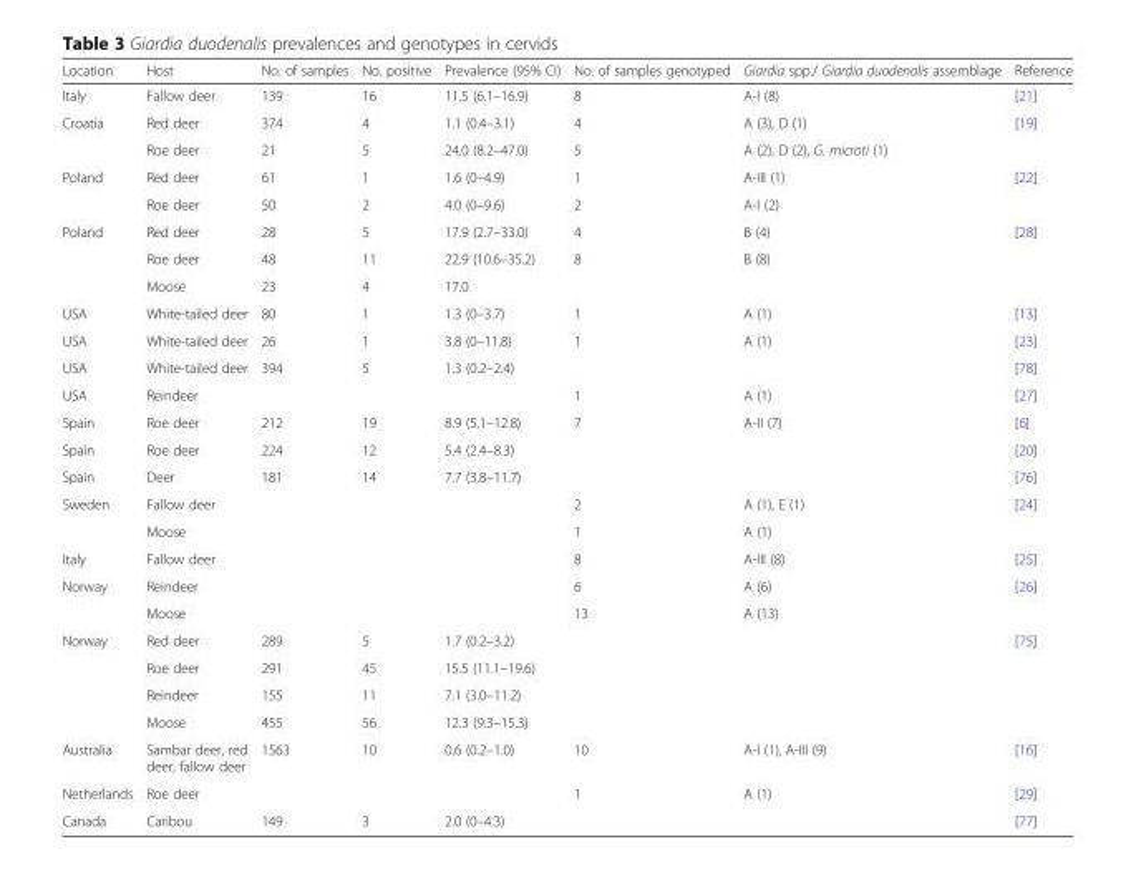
<table><thead><tr><td>Location</td><td>Host</td><td>No. of samples</td><td>No. positive</td><td>Prevalence (95% CI)</td><td>No. of samples genotyped</td><td>Giardia spp./ Giardia duodenalis assemblage</td><td>Reference</td></tr></thead><tbody><tr><td>Italy</td><td>Fallow deer</td><td>139</td><td>16</td><td>11.5 (6.1–16.9)</td><td>8</td><td>A-I (8)</td><td>[21]</td></tr><tr><td rowspan="2">Croatia</td><td>Red deer</td><td>374</td><td>4</td><td>1.1 (0.4–3.1)</td><td>4</td><td>A (3), D (1)</td><td>[19]</td></tr><tr><td>Roe deer</td><td>21</td><td>5</td><td>24.0 (8.2–47.0)</td><td>5</td><td>A (2), D (2), G. microti (1)</td><td></td></tr><tr><td rowspan="2">Poland</td><td>Red deer</td><td>61</td><td>1</td><td>1.6 (0–4.9)</td><td>1</td><td>A-III (1)</td><td>[22]</td></tr><tr><td>Roe deer</td><td>50</td><td>2</td><td>4.0 (0–9.6)</td><td>2</td><td>A-I (2)</td><td></td></tr><tr><td rowspan="3">Poland</td><td>Red deer</td><td>28</td><td>5</td><td>17.9 (2.7–33.0)</td><td>4</td><td>B (4)</td><td>[28]</td></tr><tr><td>Roe deer</td><td>48</td><td>11</td><td>22.9 (10.6–35.2)</td><td>8</td><td>B (8)</td><td></td></tr><tr><td>Moose</td><td>23</td><td>4</td><td>17.0</td><td></td><td></td><td></td></tr><tr><td>USA</td><td>White-tailed deer</td><td>80</td><td>1</td><td>1.3 (0–3.7)</td><td>1</td><td>A (1)</td><td>[13]</td></tr><tr><td>USA</td><td>White-tailed deer</td><td>26</td><td>1</td><td>3.8 (0–11.8)</td><td>1</td><td>A (1)</td><td>[23]</td></tr><tr><td>USA</td><td>White-tailed deer</td><td>394</td><td>5</td><td>1.3 (0.2–2.4)</td><td></td><td></td><td>[78]</td></tr><tr><td>USA</td><td>Reindeer</td><td></td><td></td><td></td><td>1</td><td>A (1)</td><td>[27]</td></tr><tr><td>Spain</td><td>Roe deer</td><td>212</td><td>19</td><td>8.9 (5.1–12.8)</td><td>7</td><td>A-II (7)</td><td>[6]</td></tr><tr><td>Spain</td><td>Roe deer</td><td>224</td><td>12</td><td>5.4 (2.4–8.3)</td><td></td><td></td><td>[20]</td></tr><tr><td>Spain</td><td>Deer</td><td>181</td><td>14</td><td>7.7 (3.8–11.7)</td><td></td><td></td><td>[76]</td></tr><tr><td rowspan="2">Sweden</td><td>Fallow deer</td><td></td><td></td><td></td><td>2</td><td>A (1), E (1)</td><td>[24]</td></tr><tr><td>Moose</td><td></td><td></td><td></td><td>1</td><td>A (1)</td><td></td></tr><tr><td>Italy</td><td>Fallow deer</td><td></td><td></td><td></td><td>8</td><td>A-III (8)</td><td>[25]</td></tr><tr><td rowspan="2">Norway</td><td>Reindeer</td><td></td><td></td><td></td><td>6</td><td>A (6)</td><td>[26]</td></tr><tr><td>Moose</td><td></td><td></td><td></td><td>13</td><td>A (13)</td><td></td></tr><tr><td rowspan="4">Norway</td><td>Red deer</td><td>289</td><td>5</td><td>1.7 (0.2–3.2)</td><td></td><td></td><td>[75]</td></tr><tr><td>Roe deer</td><td>291</td><td>45</td><td>15.5 (11.1–19.6)</td><td></td><td></td><td></td></tr><tr><td>Reindeer</td><td>155</td><td>11</td><td>7.1 (3.0–11.2)</td><td></td><td></td><td></td></tr><tr><td>Moose</td><td>455</td><td>56</td><td>12.3 (9.3–15.3)</td><td></td><td></td><td></td></tr><tr><td>Australia</td><td>Sambar deer, red deer, fallow deer</td><td>1563</td><td>10</td><td>0.6 (0.2–1.0)</td><td>10</td><td>A-I (1), A-III (9)</td><td>[16]</td></tr><tr><td>Netherlands</td><td>Roe deer</td><td></td><td></td><td></td><td>1</td><td>A (1)</td><td>[29]</td></tr><tr><td>Canada</td><td>Caribou</td><td>149</td><td>3</td><td>2.0 (0–4.3)</td><td></td><td></td><td>[77]</td></tr></tbody></table>